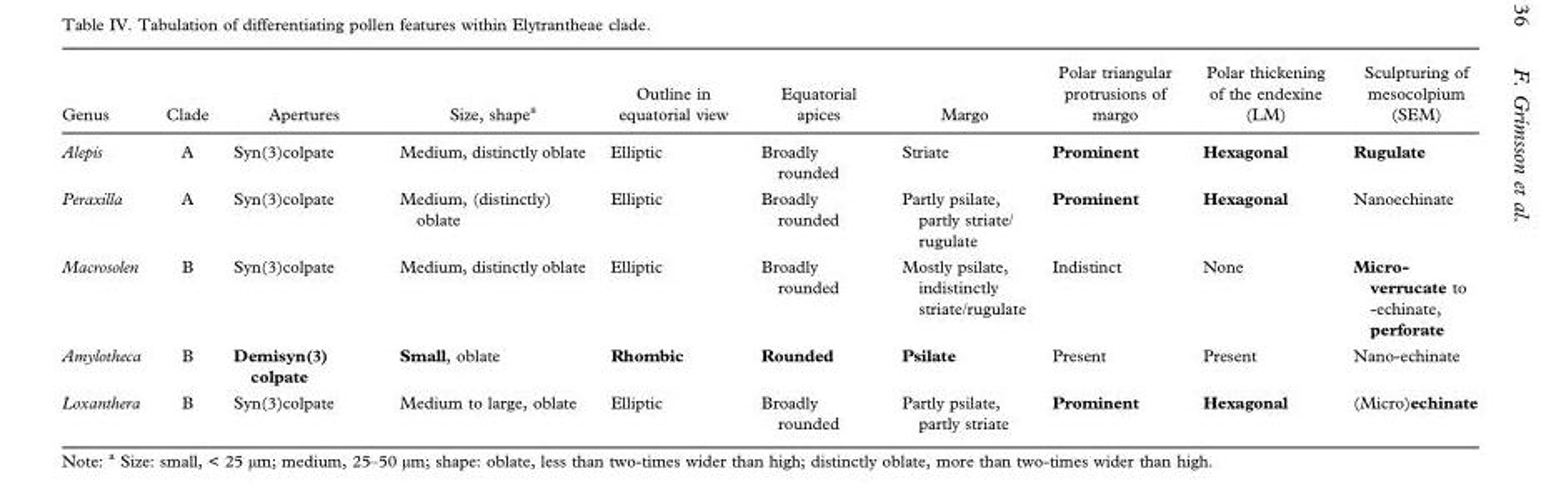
<table><thead><tr><td>Genus</td><td>Clade</td><td>Apertures</td><td>Size, shape<sup>a</sup></td><td>Outline in equatorial view</td><td>Equatorial apices</td><td>Margo</td><td>Polar triangular protrusions of margo</td><td>Polar thickening of the endexine (LM)</td><td>Sculpturing of mesocolpium (SEM)</td></tr></thead><tbody><tr><td>Alepis</td><td>A</td><td>Syn(3)colpate</td><td>Medium, distinctly oblate</td><td>Elliptic</td><td>Broadly rounded</td><td>Striate</td><td>Prominent</td><td>Hexagonal</td><td>Rugulate</td></tr><tr><td>Peraxilla</td><td>A</td><td>Syn(3)colpate</td><td>Medium, (distinctly) oblate</td><td>Elliptic</td><td>Broadly rounded</td><td>Partly psilate, partly striate/ rugulate</td><td>Prominent</td><td>Hexagonal</td><td>Nanoechinate</td></tr><tr><td>Macrosolen</td><td>B</td><td>Syn(3)colpate</td><td>Medium, distinctly oblate</td><td>Elliptic</td><td>Broadly rounded</td><td>Mostly psilate, indistinctly striate/rugulate</td><td>Indistinct</td><td>None</td><td>Micro- verrucate to -echinate, perforate</td></tr><tr><td>Amylotheca</td><td>B</td><td>Demisyn(3) colpate</td><td>Small, oblate</td><td>Rhombic</td><td>Rounded</td><td>Psilate</td><td>Present</td><td>Present</td><td>Nano-echinate</td></tr><tr><td>Loxanthera</td><td>B</td><td>Syn(3)colpate</td><td>Medium to large, oblate</td><td>Elliptic</td><td>Broadly rounded</td><td>Partly psilate, partly striate</td><td>Prominent</td><td>Hexagonal</td><td>(Micro)echinate</td></tr></tbody></table>